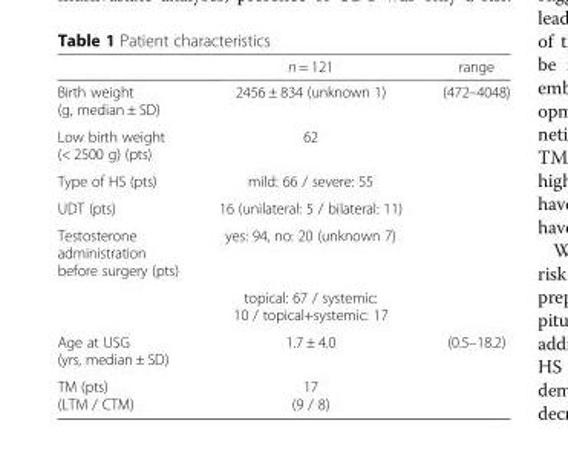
<table><thead><tr><td></td><td>n = 121</td><td>range</td></tr></thead><tbody><tr><td>Birth weight (g, median ± SD)</td><td>2456 ± 834 (unknown 1)</td><td>(472–4048)</td></tr><tr><td>Low birth weight (&lt; 2500 g) (pts)</td><td>62</td><td></td></tr><tr><td>Type of HS (pts)</td><td>mild: 66 / severe: 55</td><td></td></tr><tr><td>UDT (pts)</td><td>16 (unilateral: 5 / bilateral: 11)</td><td></td></tr><tr><td rowspan="2">Testosterone administration before surgery (pts)</td><td>yes: 94, no: 20 (unknown 7)</td><td></td></tr><tr><td>topical: 67 / systemic: 10 / topical+systemic: 17</td><td></td></tr><tr><td>Age at USG (yrs, median ± SD)</td><td>1.7 ± 4.0</td><td>(0.5–18.2)</td></tr><tr><td>TM (pts) (LTM / CTM)</td><td>17 (9 / 8)</td><td></td></tr></tbody></table>